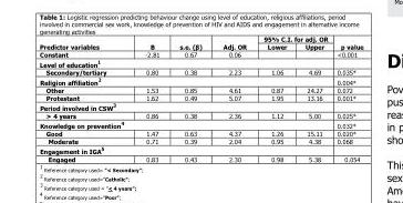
<table><thead><tr><td rowspan="2">Predictor variables</td><td rowspan="2">Β</td><td rowspan="2">s.e. (β)</td><td rowspan="2">Adj. OR</td><td colspan="2">95% C.I. for adj. OR</td><td rowspan="2">p value</td></tr><tr><td>Lower</td><td>Upper</td></tr></thead><tbody><tr><td>Constant</td><td>-2.81</td><td>0.67</td><td>0.06</td><td></td><td></td><td>&lt;0.001</td></tr><tr><td colspan="7">Level of education<sup>1</sup></td></tr><tr><td>Secondary/tertiary</td><td>0.80</td><td>0.38</td><td>2.23</td><td>1.06</td><td>4.69</td><td>0.035*</td></tr><tr><td colspan="6">Religion affiliation<sup>2</sup></td><td>0.004*</td></tr><tr><td>Other</td><td>1.53</td><td>0.85</td><td>4.61</td><td>0.87</td><td>24.27</td><td>0.072</td></tr><tr><td>Protestant</td><td>1.62</td><td>0.49</td><td>5.07</td><td>1.95</td><td>13.16</td><td>0.001*</td></tr><tr><td colspan="7">Period involved in CSW<sup>3</sup></td></tr><tr><td>&gt; 4 years</td><td>0.86</td><td>0.38</td><td>2.36</td><td>1.12</td><td>5.00</td><td>0.025*</td></tr><tr><td colspan="6">Knowledge on prevention<sup>4</sup></td><td>0.032*</td></tr><tr><td>Good</td><td>1.47</td><td>0.63</td><td>4.37</td><td>1.26</td><td>15.11</td><td>0.020*</td></tr><tr><td>Moderate</td><td>0.71</td><td>0.39</td><td>2.04</td><td>0.95</td><td>4.38</td><td>0.068</td></tr><tr><td colspan="7">Engagement in IGA<sup>5</sup></td></tr><tr><td>Engaged</td><td>0.83</td><td>0.43</td><td>2.30</td><td>0.98</td><td>5.38</td><td>0.054</td></tr></tbody></table>